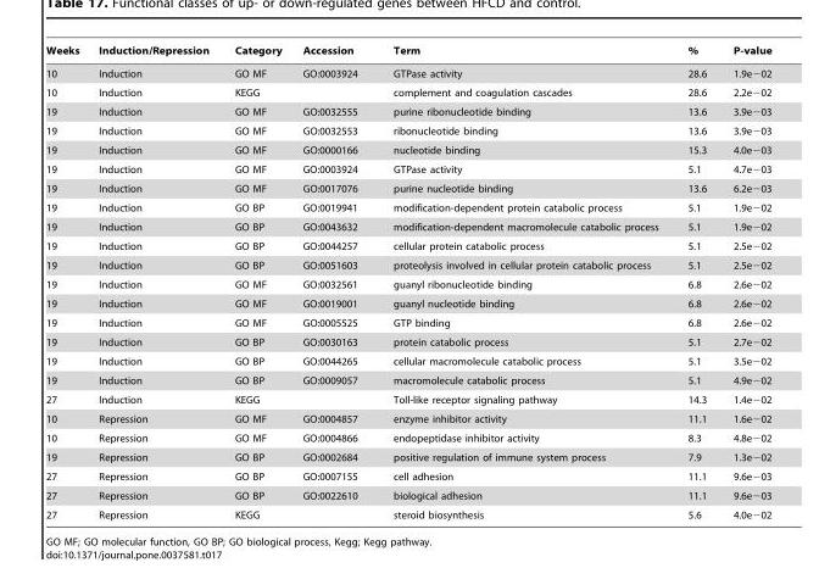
<table><thead><tr><td>Weeks</td><td>Induction/Repression</td><td>Category</td><td>Accession</td><td>Term</td><td>%</td><td>P-value</td></tr></thead><tbody><tr><td>10</td><td>Induction</td><td>GO MF</td><td>GO:0003924</td><td>GTPase activity</td><td>28.6</td><td>1.9e−02</td></tr><tr><td>10</td><td>Induction</td><td>KEGG</td><td></td><td>complement and coagulation cascades</td><td>28.6</td><td>2.2e−02</td></tr><tr><td>19</td><td>Induction</td><td>GO MF</td><td>GO:0032555</td><td>purine ribonucleotide binding</td><td>13.6</td><td>3.9e−03</td></tr><tr><td>19</td><td>Induction</td><td>GO MF</td><td>GO:0032553</td><td>ribonucleotide binding</td><td>13.6</td><td>3.9e−03</td></tr><tr><td>19</td><td>Induction</td><td>GO MF</td><td>GO:0000166</td><td>nucleotide binding</td><td>15.3</td><td>4.0e−03</td></tr><tr><td>19</td><td>Induction</td><td>GO MF</td><td>GO:0003924</td><td>GTPase activity</td><td>5.1</td><td>4.7e−03</td></tr><tr><td>19</td><td>Induction</td><td>GO MF</td><td>GO:0017076</td><td>purine nucleotide binding</td><td>13.6</td><td>6.2e−03</td></tr><tr><td>19</td><td>Induction</td><td>GO BP</td><td>GO:0019941</td><td>modification-dependent protein catabolic process</td><td>5.1</td><td>1.9e−02</td></tr><tr><td>19</td><td>Induction</td><td>GO BP</td><td>GO:0043632</td><td>modification-dependent macromolecule catabolic process</td><td>5.1</td><td>1.9e−02</td></tr><tr><td>19</td><td>Induction</td><td>GO BP</td><td>GO:0044257</td><td>cellular protein catabolic process</td><td>5.1</td><td>2.5e−02</td></tr><tr><td>19</td><td>Induction</td><td>GO BP</td><td>GO:0051603</td><td>proteolysis involved in cellular protein catabolic process</td><td>5.1</td><td>2.5e−02</td></tr><tr><td>19</td><td>Induction</td><td>GO MF</td><td>GO:0032561</td><td>guanyl ribonucleotide binding</td><td>6.8</td><td>2.6e−02</td></tr><tr><td>19</td><td>Induction</td><td>GO MF</td><td>GO:0019001</td><td>guanyl nucleotide binding</td><td>6.8</td><td>2.6e−02</td></tr><tr><td>19</td><td>Induction</td><td>GO MF</td><td>GO:0005525</td><td>GTP binding</td><td>6.8</td><td>2.6e−02</td></tr><tr><td>19</td><td>Induction</td><td>GO BP</td><td>GO:0030163</td><td>protein catabolic process</td><td>5.1</td><td>2.7e−02</td></tr><tr><td>19</td><td>Induction</td><td>GO BP</td><td>GO:0044265</td><td>cellular macromolecule catabolic process</td><td>5.1</td><td>3.5e−02</td></tr><tr><td>19</td><td>Induction</td><td>GO BP</td><td>GO:0009057</td><td>macromolecule catabolic process</td><td>5.1</td><td>4.9e−02</td></tr><tr><td>27</td><td>Induction</td><td>KEGG</td><td></td><td>Toll-like receptor signaling pathway</td><td>14.3</td><td>1.4e−02</td></tr><tr><td>10</td><td>Repression</td><td>GO MF</td><td>GO:0004857</td><td>enzyme inhibitor activity</td><td>11.1</td><td>1.6e−02</td></tr><tr><td>10</td><td>Repression</td><td>GO MF</td><td>GO:0004866</td><td>endopeptidase inhibitor activity</td><td>8.3</td><td>4.8e−02</td></tr><tr><td>19</td><td>Repression</td><td>GO BP</td><td>GO:0002684</td><td>positive regulation of immune system process</td><td>7.9</td><td>1.3e−02</td></tr><tr><td>27</td><td>Repression</td><td>GO BP</td><td>GO:0007155</td><td>cell adhesion</td><td>11.1</td><td>9.6e−03</td></tr><tr><td>27</td><td>Repression</td><td>GO BP</td><td>GO:0022610</td><td>biological adhesion</td><td>11.1</td><td>9.6e−03</td></tr><tr><td>27</td><td>Repression</td><td>KEGG</td><td></td><td>steroid biosynthesis</td><td>5.6</td><td>4.0e−02</td></tr></tbody></table>